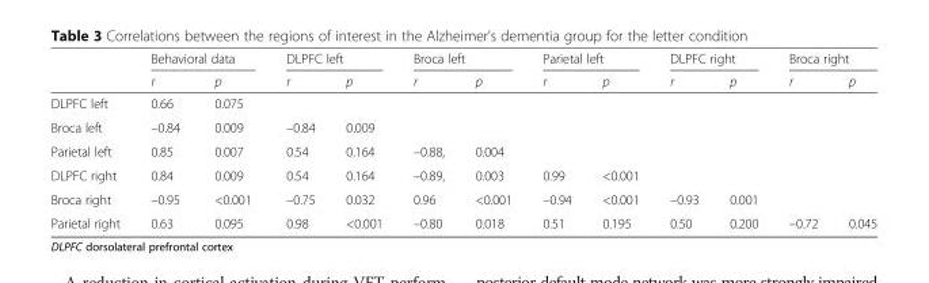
<table><thead><tr><td rowspan="2"></td><td colspan="2">Behavioral data</td><td colspan="2">DLPFC left</td><td colspan="2">Broca left</td><td colspan="2">Parietal left</td><td colspan="2">DLPFC right</td><td colspan="2">Broca right</td></tr><tr><td>r</td><td>p</td><td>r</td><td>p</td><td>r</td><td>p</td><td>r</td><td>p</td><td>r</td><td>p</td><td>r</td><td>p</td></tr></thead><tbody><tr><td>DLPFC left</td><td>0.66</td><td>0.075</td><td></td><td></td><td></td><td></td><td></td><td></td><td></td><td></td><td></td><td></td></tr><tr><td>Broca left</td><td>–0.84</td><td>0.009</td><td>–0.84</td><td>0.009</td><td></td><td></td><td></td><td></td><td></td><td></td><td></td><td></td></tr><tr><td>Parietal left</td><td>0.85</td><td>0.007</td><td>0.54</td><td>0.164</td><td>–0.88,</td><td>0.004</td><td></td><td></td><td></td><td></td><td></td><td></td></tr><tr><td>DLPFC right</td><td>0.84</td><td>0.009</td><td>0.54</td><td>0.164</td><td>–0.89,</td><td>0.003</td><td>0.99</td><td>&lt;0.001</td><td></td><td></td><td></td><td></td></tr><tr><td>Broca right</td><td>–0.95</td><td>&lt;0.001</td><td>–0.75</td><td>0.032</td><td>0.96</td><td>&lt;0.001</td><td>–0.94</td><td>&lt;0.001</td><td>–0.93</td><td>0.001</td><td></td><td></td></tr><tr><td>Parietal right</td><td>0.63</td><td>0.095</td><td>0.98</td><td>&lt;0.001</td><td>–0.80</td><td>0.018</td><td>0.51</td><td>0.195</td><td>0.50</td><td>0.200</td><td>–0.72</td><td>0.045</td></tr></tbody></table>